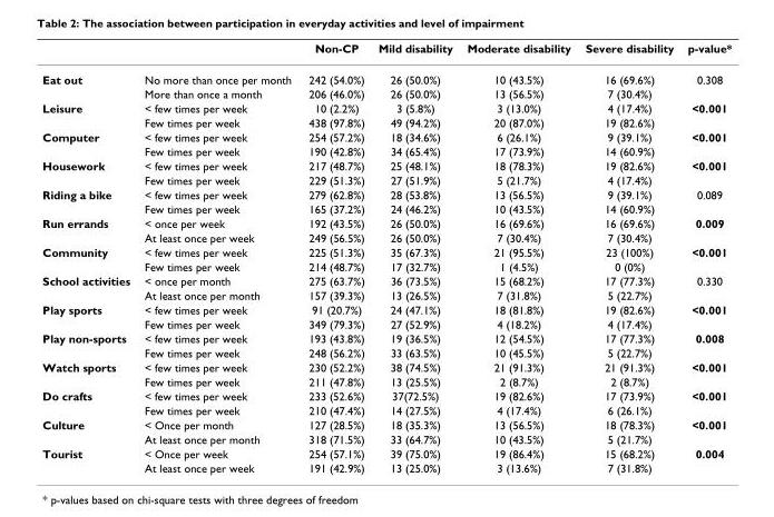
<table><thead><tr><td></td><td></td><td>Non-CP</td><td>Mild disability</td><td>Moderate disability</td><td>Severe disability</td><td>p-value*</td></tr></thead><tbody><tr><td rowspan="2">Eat out</td><td>No more than once per month</td><td>242 (54.0%)</td><td>26 (50.0%)</td><td>10 (43.5%)</td><td>16 (69.6%)</td><td>0.308</td></tr><tr><td>More than once a month</td><td>206 (46.0%)</td><td>26 (50.0%)</td><td>13 (56.5%)</td><td>7 (30.4%)</td><td></td></tr><tr><td rowspan="2">Leisure</td><td>&lt; few times per week</td><td>10 (2.2%)</td><td>3 (5.8%)</td><td>3 (13.0%)</td><td>4 (17.4%)</td><td>&lt;0.001</td></tr><tr><td>Few times per week</td><td>438 (97.8%)</td><td>49 (94.2%)</td><td>20 (87.0%)</td><td>19 (82.6%)</td><td></td></tr><tr><td rowspan="2">Computer</td><td>&lt; few times per week</td><td>254 (57.2%)</td><td>18 (34.6%)</td><td>6 (26.1%)</td><td>9 (39.1%)</td><td>&lt;0.001</td></tr><tr><td>Few times per week</td><td>190 (42.8%)</td><td>34 (65.4%)</td><td>17 (73.9%)</td><td>14 (60.9%)</td><td></td></tr><tr><td rowspan="2">Housework</td><td>&lt; few times per week</td><td>217 (48.7%)</td><td>25 (48.1%)</td><td>18 (78.3%)</td><td>19 (82.6%)</td><td>&lt;0.001</td></tr><tr><td>Few times per week</td><td>229 (51.3%)</td><td>27 (51.9%)</td><td>5 (21.7%)</td><td>4 (17.4%)</td><td></td></tr><tr><td rowspan="2">Riding a bike</td><td>&lt; few times per week</td><td>279 (62.8%)</td><td>28 (53.8%)</td><td>13 (56.5%)</td><td>9 (39.1%)</td><td>0.089</td></tr><tr><td>Few times per week</td><td>165 (37.2%)</td><td>24 (46.2%)</td><td>10 (43.5%)</td><td>14 (60.9%)</td><td></td></tr><tr><td rowspan="2">Run errands</td><td>&lt; once per week</td><td>192 (43.5%)</td><td>26 (50.0%)</td><td>16 (69.6%)</td><td>16 (69.6%)</td><td>0.009</td></tr><tr><td>At least once per week</td><td>249 (56.5%)</td><td>26 (50.0%)</td><td>7 (30.4%)</td><td>7 (30.4%)</td><td></td></tr><tr><td rowspan="2">Community</td><td>&lt; few times per week</td><td>225 (51.3%)</td><td>35 (67.3%)</td><td>21 (95.5%)</td><td>23 (100%)</td><td>&lt;0.001</td></tr><tr><td>Few times per week</td><td>214 (48.7%)</td><td>17 (32.7%)</td><td>1 (4.5%)</td><td>0 (0%)</td><td></td></tr><tr><td rowspan="2">School activities</td><td>&lt; once per month</td><td>275 (63.7%)</td><td>36 (73.5%)</td><td>15 (68.2%)</td><td>17 (77.3%)</td><td>0.330</td></tr><tr><td>At least once per month</td><td>157 (39.3%)</td><td>13 (26.5%)</td><td>7 (31.8%)</td><td>5 (22.7%)</td><td></td></tr><tr><td rowspan="2">Play sports</td><td>&lt; few times per week</td><td>91 (20.7%)</td><td>24 (47.1%)</td><td>18 (81.8%)</td><td>19 (82.6%)</td><td>&lt;0.001</td></tr><tr><td>Few times per week</td><td>349 (79.3%)</td><td>27 (52.9%)</td><td>4 (18.2%)</td><td>4 (17.4%)</td><td></td></tr><tr><td rowspan="2">Play non-sports</td><td>&lt; few times per week</td><td>193 (43.8%)</td><td>19 (36.5%)</td><td>12 (54.5%)</td><td>17 (77.3%)</td><td>0.008</td></tr><tr><td>Few times per week</td><td>248 (56.2%)</td><td>33 (63.5%)</td><td>10 (45.5%)</td><td>5 (22.7%)</td><td></td></tr><tr><td rowspan="2">Watch sports</td><td>&lt; few times per week</td><td>230 (52.2%)</td><td>38 (74.5%)</td><td>21 (91.3%)</td><td>21 (91.3%)</td><td>&lt;0.001</td></tr><tr><td>Few times per week</td><td>211 (47.8%)</td><td>13 (25.5%)</td><td>2 (8.7%)</td><td>2 (8.7%)</td><td></td></tr><tr><td rowspan="2">Do crafts</td><td>&lt; few times per week</td><td>233 (52.6%)</td><td>37(72.5%)</td><td>19 (82.6%)</td><td>17 (73.9%)</td><td>&lt;0.001</td></tr><tr><td>Few times per week</td><td>210 (47.4%)</td><td>14 (27.5%)</td><td>4 (17.4%)</td><td>6 (26.1%)</td><td></td></tr><tr><td rowspan="2">Culture</td><td>&lt; Once per month</td><td>127 (28.5%)</td><td>18 (35.3%)</td><td>13 (56.5%)</td><td>18 (78.3%)</td><td>&lt;0.001</td></tr><tr><td>At least once per month</td><td>318 (71.5%)</td><td>33 (64.7%)</td><td>10 (43.5%)</td><td>5 (21.7%)</td><td></td></tr><tr><td rowspan="2">Tourist</td><td>&lt; Once per week</td><td>254 (57.1%)</td><td>39 (75.0%)</td><td>19 (86.4%)</td><td>15 (68.2%)</td><td>0.004</td></tr><tr><td>At least once per week</td><td>191 (42.9%)</td><td>13 (25.0%)</td><td>3 (13.6%)</td><td>7 (31.8%)</td><td></td></tr></tbody></table>